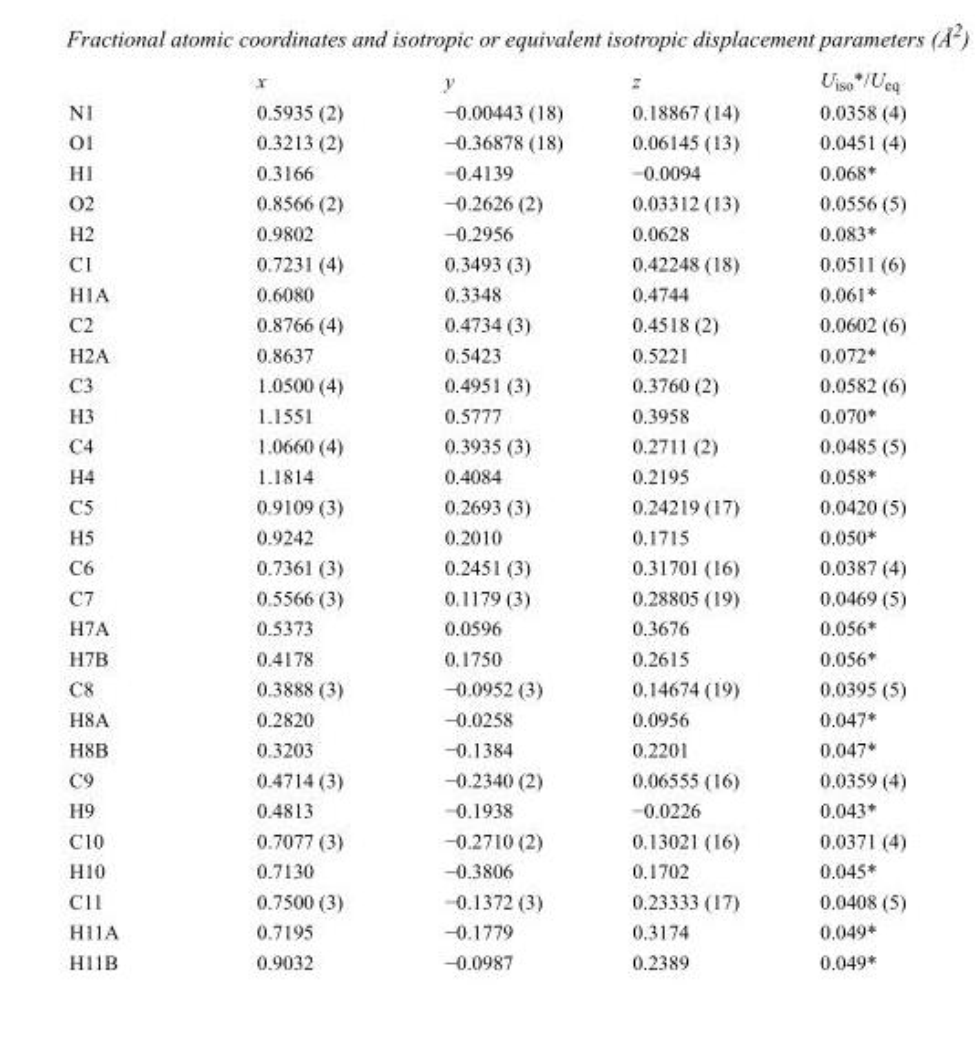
<table><thead><tr><td></td><td>x</td><td>y</td><td>z</td><td>U<sub>iso</sub>*/U<sub>eq</sub></td></tr></thead><tbody><tr><td>N1</td><td>0.5935 (2)</td><td>−0.00443 (18)</td><td>0.18867 (14)</td><td>0.0358 (4)</td></tr><tr><td>O1</td><td>0.3213 (2)</td><td>−0.36878 (18)</td><td>0.06145 (13)</td><td>0.0451 (4)</td></tr><tr><td>H1</td><td>0.3166</td><td>−0.4139</td><td>−0.0094</td><td>0.068*</td></tr><tr><td>O2</td><td>0.8566 (2)</td><td>−0.2626 (2)</td><td>0.03312 (13)</td><td>0.0556 (5)</td></tr><tr><td>H2</td><td>0.9802</td><td>−0.2956</td><td>0.0628</td><td>0.083*</td></tr><tr><td>C1</td><td>0.7231 (4)</td><td>0.3493 (3)</td><td>0.42248 (18)</td><td>0.0511 (6)</td></tr><tr><td>H1A</td><td>0.6080</td><td>0.3348</td><td>0.4744</td><td>0.061*</td></tr><tr><td>C2</td><td>0.8766 (4)</td><td>0.4734 (3)</td><td>0.4518 (2)</td><td>0.0602 (6)</td></tr><tr><td>H2A</td><td>0.8637</td><td>0.5423</td><td>0.5221</td><td>0.072*</td></tr><tr><td>C3</td><td>1.0500 (4)</td><td>0.4951 (3)</td><td>0.3760 (2)</td><td>0.0582 (6)</td></tr><tr><td>H3</td><td>1.1551</td><td>0.5777</td><td>0.3958</td><td>0.070*</td></tr><tr><td>C4</td><td>1.0660 (4)</td><td>0.3935 (3)</td><td>0.2711 (2)</td><td>0.0485 (5)</td></tr><tr><td>H4</td><td>1.1814</td><td>0.4084</td><td>0.2195</td><td>0.058*</td></tr><tr><td>C5</td><td>0.9109 (3)</td><td>0.2693 (3)</td><td>0.24219 (17)</td><td>0.0420 (5)</td></tr><tr><td>H5</td><td>0.9242</td><td>0.2010</td><td>0.1715</td><td>0.050*</td></tr><tr><td>C6</td><td>0.7361 (3)</td><td>0.2451 (3)</td><td>0.31701 (16)</td><td>0.0387 (4)</td></tr><tr><td>C7</td><td>0.5566 (3)</td><td>0.1179 (3)</td><td>0.28805 (19)</td><td>0.0469 (5)</td></tr><tr><td>H7A</td><td>0.5373</td><td>0.0596</td><td>0.3676</td><td>0.056*</td></tr><tr><td>H7B</td><td>0.4178</td><td>0.1750</td><td>0.2615</td><td>0.056*</td></tr><tr><td>C8</td><td>0.3888 (3)</td><td>−0.0952 (3)</td><td>0.14674 (19)</td><td>0.0395 (5)</td></tr><tr><td>H8A</td><td>0.2820</td><td>−0.0258</td><td>0.0956</td><td>0.047*</td></tr><tr><td>H8B</td><td>0.3203</td><td>−0.1384</td><td>0.2201</td><td>0.047*</td></tr><tr><td>C9</td><td>0.4714 (3)</td><td>−0.2340 (2)</td><td>0.06555 (16)</td><td>0.0359 (4)</td></tr><tr><td>H9</td><td>0.4813</td><td>−0.1938</td><td>−0.0226</td><td>0.043*</td></tr><tr><td>C10</td><td>0.7077 (3)</td><td>−0.2710 (2)</td><td>0.13021 (16)</td><td>0.0371 (4)</td></tr><tr><td>H10</td><td>0.7130</td><td>−0.3806</td><td>0.1702</td><td>0.045*</td></tr><tr><td>C11</td><td>0.7500 (3)</td><td>−0.1372 (3)</td><td>0.23333 (17)</td><td>0.0408 (5)</td></tr><tr><td>H11A</td><td>0.7195</td><td>−0.1779</td><td>0.3174</td><td>0.049*</td></tr><tr><td>H11B</td><td>0.9032</td><td>−0.0987</td><td>0.2389</td><td>0.049*</td></tr></tbody></table>